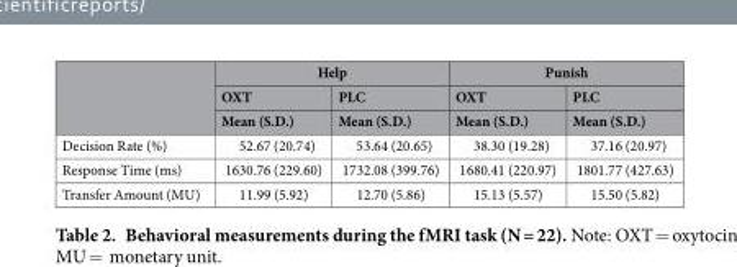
<table><thead><tr><td rowspan="3"></td><td colspan="2">Help</td><td colspan="2">Punish</td></tr><tr><td rowspan="2">OXT Mean (S.D.)</td><td rowspan="2">PLC Mean (S.D.)</td><td rowspan="2">OXT Mean (S.D.)</td><td rowspan="2">PLC Mean (S.D.)</td></tr><tr></tr></thead><tbody><tr><td>Decision Rate (%)</td><td>52.67 (20.74)</td><td>53.64 (20.65)</td><td>38.30 (19.28)</td><td>37.16 (20.97)</td></tr><tr><td>Response Time (ms)</td><td>1630.76 (229.60)</td><td>1732.08 (399.76)</td><td>1680.41 (220.97)</td><td>1801.77 (427.63)</td></tr><tr><td>Transfer Amount (MU)</td><td>11.99 (5.92)</td><td>12.70 (5.86)</td><td>15.13 (5.57)</td><td>15.50 (5.82)</td></tr></tbody></table>